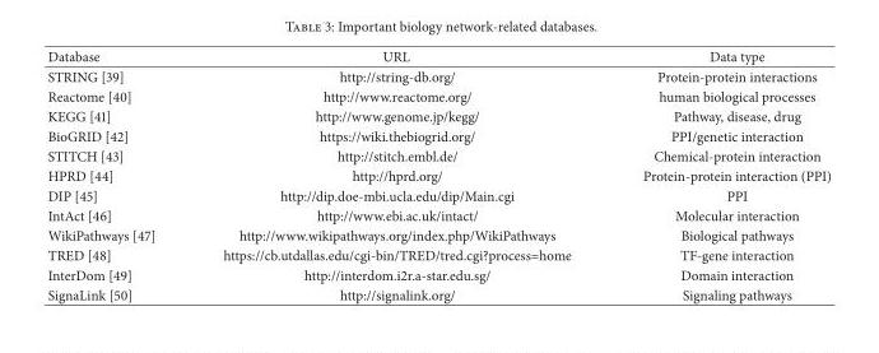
<table><thead><tr><td>Database</td><td>URL</td><td>Data type</td></tr></thead><tbody><tr><td>STRING [39]</td><td>http://string-db.org/</td><td>Protein-protein interactions</td></tr><tr><td>Reactome [40]</td><td>http://www.reactome.org/</td><td>human biological processes</td></tr><tr><td>KEGG [41]</td><td>http://www.genome.jp/kegg/</td><td>Pathway, disease, drug</td></tr><tr><td>BioGRID [42]</td><td>https://wiki.thebiogrid.org/</td><td>PPI/genetic interaction</td></tr><tr><td>STITCH [43]</td><td>http://stitch.embl.de/</td><td>Chemical-protein interaction</td></tr><tr><td>HPRD [44]</td><td>http://hprd.org/</td><td>Protein-protein interaction (PPI)</td></tr><tr><td>DIP [45]</td><td>http://dip.doe-mbi.ucla.edu/dip/Main.cgi</td><td>PPI</td></tr><tr><td>IntAct [46]</td><td>http://www.ebi.ac.uk/intact/</td><td>Molecular interaction</td></tr><tr><td>WikiPathways [47]</td><td>http://www.wikipathways.org/index.php/WikiPathways</td><td>Biological pathways</td></tr><tr><td>TRED [48]</td><td>https://cb.utdallas.edu/cgi-bin/TRED/tred.cgi?process=home</td><td>TF-gene interaction</td></tr><tr><td>InterDom [49]</td><td>http://interdom.i2r.a-star.edu.sg/</td><td>Domain interaction</td></tr><tr><td>SignaLink [50]</td><td>http://signalink.org/</td><td>Signaling pathways</td></tr></tbody></table>